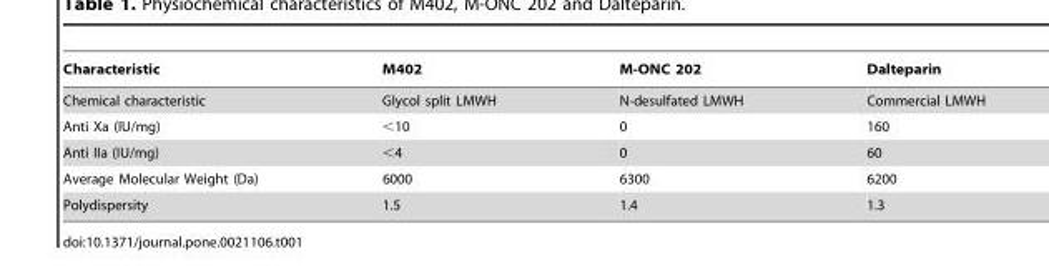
<table><thead><tr><td>Characteristic</td><td>M402</td><td>M-ONC 202</td><td>Dalteparin</td></tr></thead><tbody><tr><td>Chemical characteristic</td><td>Glycol split LMWH</td><td>N-desulfated LMWH</td><td>Commercial LMWH</td></tr><tr><td>Anti Xa (IU/mg)</td><td>&lt;10</td><td>0</td><td>160</td></tr><tr><td>Anti IIa (IU/mg)</td><td>&lt;4</td><td>0</td><td>60</td></tr><tr><td>Average Molecular Weight (Da)</td><td>6000</td><td>6300</td><td>6200</td></tr><tr><td>Polydispersity</td><td>1.5</td><td>1.4</td><td>1.3</td></tr></tbody></table>